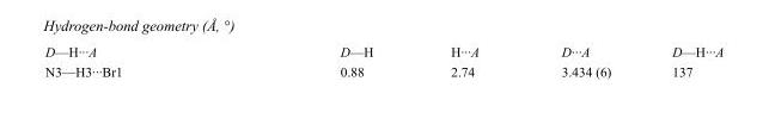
<table><tbody><tr><td>D—H···A</td><td>D—H</td><td>H···A</td><td>D···A</td><td>D—H···A</td></tr><tr><td>N3—H3···Br1</td><td>0.88</td><td>2.74</td><td>3.434 (6)</td><td>137</td></tr></tbody></table>